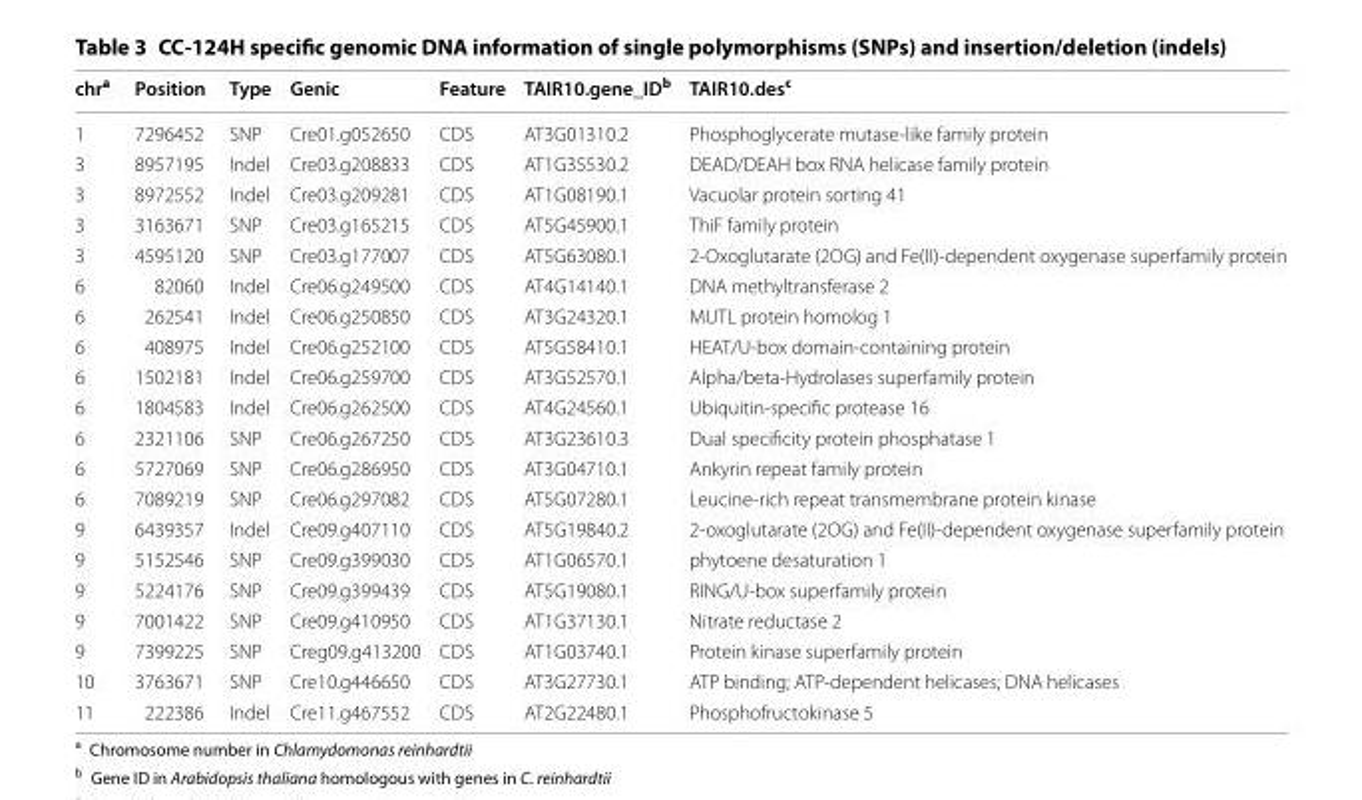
<table><thead><tr><td>chr<sup>a</sup></td><td>Position</td><td>Type</td><td>Genic</td><td>Feature</td><td>TAIR10.gene_ID<sup>b</sup></td><td>TAIR10.des<sup>c</sup></td></tr></thead><tbody><tr><td>1</td><td>7296452</td><td>SNP</td><td>Cre01.g052650</td><td>CDS</td><td>AT3G01310.2</td><td>Phosphoglycerate mutase‑like family protein</td></tr><tr><td>3</td><td>8957195</td><td>Indel</td><td>Cre03.g208833</td><td>CDS</td><td>AT1G35530.2</td><td>DEAD/DEAH box RNA helicase family protein</td></tr><tr><td>3</td><td>8972552</td><td>Indel</td><td>Cre03.g209281</td><td>CDS</td><td>AT1G08190.1</td><td>Vacuolar protein sorting 41</td></tr><tr><td>3</td><td>3163671</td><td>SNP</td><td>Cre03.g165215</td><td>CDS</td><td>AT5G45900.1</td><td>ThiF family protein</td></tr><tr><td>3</td><td>4595120</td><td>SNP</td><td>Cre03.g177007</td><td>CDS</td><td>AT5G63080.1</td><td>2‑Oxoglutarate (2OG) and Fe(II)‑dependent oxygenase superfamily protein</td></tr><tr><td>6</td><td>82060</td><td>Indel</td><td>Cre06.g249500</td><td>CDS</td><td>AT4G14140.1</td><td>DNA methyltransferase 2</td></tr><tr><td>6</td><td>262541</td><td>Indel</td><td>Cre06.g250850</td><td>CDS</td><td>AT3G24320.1</td><td>MUTL protein homolog 1</td></tr><tr><td>6</td><td>408975</td><td>Indel</td><td>Cre06.g252100</td><td>CDS</td><td>AT5G58410.1</td><td>HEAT/U‑box domain‑containing protein</td></tr><tr><td>6</td><td>1502181</td><td>Indel</td><td>Cre06.g259700</td><td>CDS</td><td>AT3G52570.1</td><td>Alpha/beta‑Hydrolases superfamily protein</td></tr><tr><td>6</td><td>1804583</td><td>Indel</td><td>Cre06.g262500</td><td>CDS</td><td>AT4G24560.1</td><td>Ubiquitin‑specific protease 16</td></tr><tr><td>6</td><td>2321106</td><td>SNP</td><td>Cre06.g267250</td><td>CDS</td><td>AT3G23610.3</td><td>Dual specificity protein phosphatase 1</td></tr><tr><td>6</td><td>5727069</td><td>SNP</td><td>Cre06.g286950</td><td>CDS</td><td>AT3G04710.1</td><td>Ankyrin repeat family protein</td></tr><tr><td>6</td><td>7089219</td><td>SNP</td><td>Cre06.g297082</td><td>CDS</td><td>AT5G07280.1</td><td>Leucine‑rich repeat transmembrane protein kinase</td></tr><tr><td>9</td><td>6439357</td><td>Indel</td><td>Cre09.g407110</td><td>CDS</td><td>AT5G19840.2</td><td>2‑oxoglutarate (2OG) and Fe(II)‑dependent oxygenase superfamily protein</td></tr><tr><td>9</td><td>5152546</td><td>SNP</td><td>Cre09.g399030</td><td>CDS</td><td>AT1G06570.1</td><td>phytoene desaturation 1</td></tr><tr><td>9</td><td>5224176</td><td>SNP</td><td>Cre09.g399439</td><td>CDS</td><td>AT5G19080.1</td><td>RING/U‑box superfamily protein</td></tr><tr><td>9</td><td>7001422</td><td>SNP</td><td>Cre09.g410950</td><td>CDS</td><td>AT1G37130.1</td><td>Nitrate reductase 2</td></tr><tr><td>9</td><td>7399225</td><td>SNP</td><td>Creg09.g413200</td><td>CDS</td><td>AT1G03740.1</td><td>Protein kinase superfamily protein</td></tr><tr><td>10</td><td>3763671</td><td>SNP</td><td>Cre10.g446650</td><td>CDS</td><td>AT3G27730.1</td><td>ATP binding; ATP‑dependent helicases; DNA helicases</td></tr><tr><td>11</td><td>222386</td><td>Indel</td><td>Cre11.g467552</td><td>CDS</td><td>AT2G22480.1</td><td>Phosphofructokinase 5</td></tr></tbody></table>